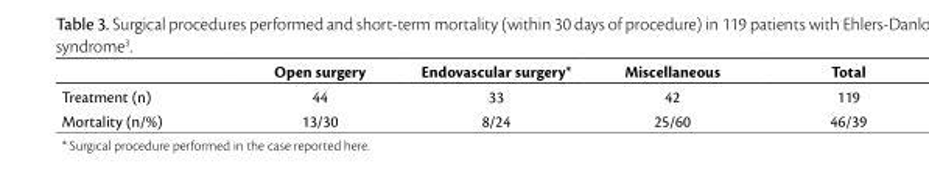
<table><thead><tr><td></td><td>Open surgery</td><td>Endovascular surgery*</td><td>Miscellaneous</td><td>Total</td></tr></thead><tbody><tr><td>Treatment (n)</td><td>44</td><td>33</td><td>42</td><td>119</td></tr><tr><td>Mortality (n/%)</td><td>13/30</td><td>8/24</td><td>25/60</td><td>46/39</td></tr></tbody></table>